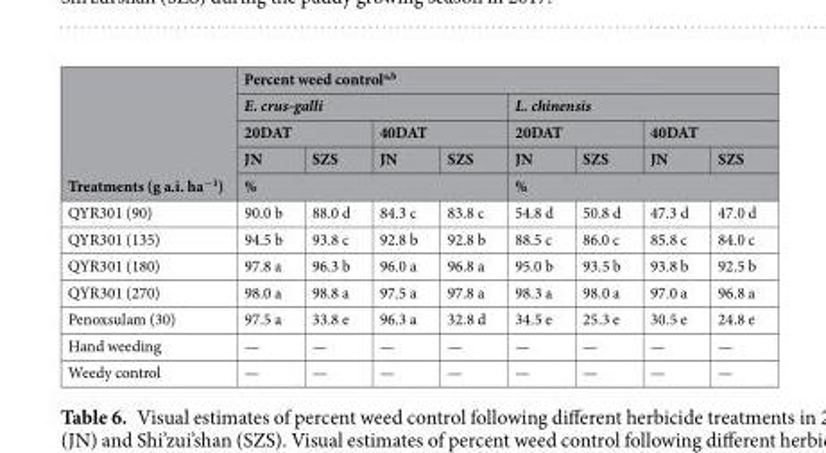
<table><thead><tr><td rowspan="5">Treatments (g a.i. ha<sup>−1</sup>)</td><td colspan="8">Percent weed control<sup>a,b</sup></td></tr><tr><td colspan="4">E. crus-galli</td><td colspan="4">L. chinensis</td></tr><tr><td colspan="2">20DAT</td><td colspan="2">40DAT</td><td colspan="2">20DAT</td><td colspan="2">40DAT</td></tr><tr><td>JN</td><td>SZS</td><td>JN</td><td>SZS</td><td>JN</td><td>SZS</td><td>JN</td><td>SZS</td></tr><tr><td colspan="4">%</td><td colspan="4">%</td></tr></thead><tbody><tr><td>QYR301 (90)</td><td>90.0 b</td><td>88.0 d</td><td>84.3 c</td><td>83.8 c</td><td>54.8 d</td><td>50.8 d</td><td>47.3 d</td><td>47.0 d</td></tr><tr><td>QYR301 (135)</td><td>94.5 b</td><td>93.8 c</td><td>92.8 b</td><td>92.8 b</td><td>88.5 c</td><td>86.0 c</td><td>85.8 c</td><td>84.0 c</td></tr><tr><td>QYR301 (180)</td><td>97.8 a</td><td>96.3 b</td><td>96.0 a</td><td>96.8 a</td><td>95.0 b</td><td>93.5 b</td><td>93.8 b</td><td>92.5 b</td></tr><tr><td>QYR301 (270)</td><td>98.0 a</td><td>98.8 a</td><td>97.5 a</td><td>97.8 a</td><td>98.3 a</td><td>98.0 a</td><td>97.0 a</td><td>96.8 a</td></tr><tr><td>Penoxsulam (30)</td><td>97.5 a</td><td>33.8 e</td><td>96.3 a</td><td>32.8 d</td><td>34.5 e</td><td>25.3 e</td><td>30.5 e</td><td>24.8 e</td></tr><tr><td>Hand weeding</td><td>—</td><td>—</td><td>—</td><td>—</td><td>—</td><td>—</td><td>—</td><td>—</td></tr><tr><td>Weedy control</td><td>—</td><td>—</td><td>—</td><td>—</td><td>—</td><td>—</td><td>—</td><td>—</td></tr></tbody></table>